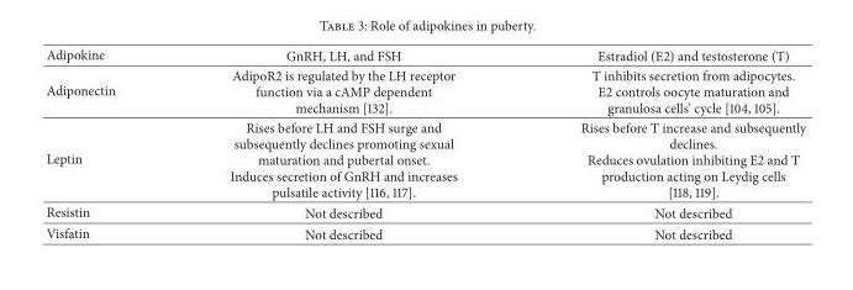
<table><thead><tr><td>Adipokine</td><td>GnRH, LH, and FSH</td><td>Estradiol (E2) and testosterone (T)</td></tr></thead><tbody><tr><td>Adiponectin</td><td>AdipoR2 is regulated by the LH receptor function via a cAMP dependent mechanism [132].</td><td>T inhibits secretion from adipocytes. E2 controls oocyte maturation and granulosa cells’ cycle [104, 105].</td></tr><tr><td>Leptin</td><td>Rises before LH and FSH surge and subsequently declines promoting sexual maturation and pubertal onset. Induces secretion of GnRH and increases pulsatile activity [116, 117].</td><td>Rises before T increase and subsequently declines. Reduces ovulation inhibiting E2 and T production acting on Leydig cells [118, 119].</td></tr><tr><td>Resistin</td><td>Not described</td><td>Not described</td></tr><tr><td>Visfatin</td><td>Not described</td><td>Not described</td></tr></tbody></table>